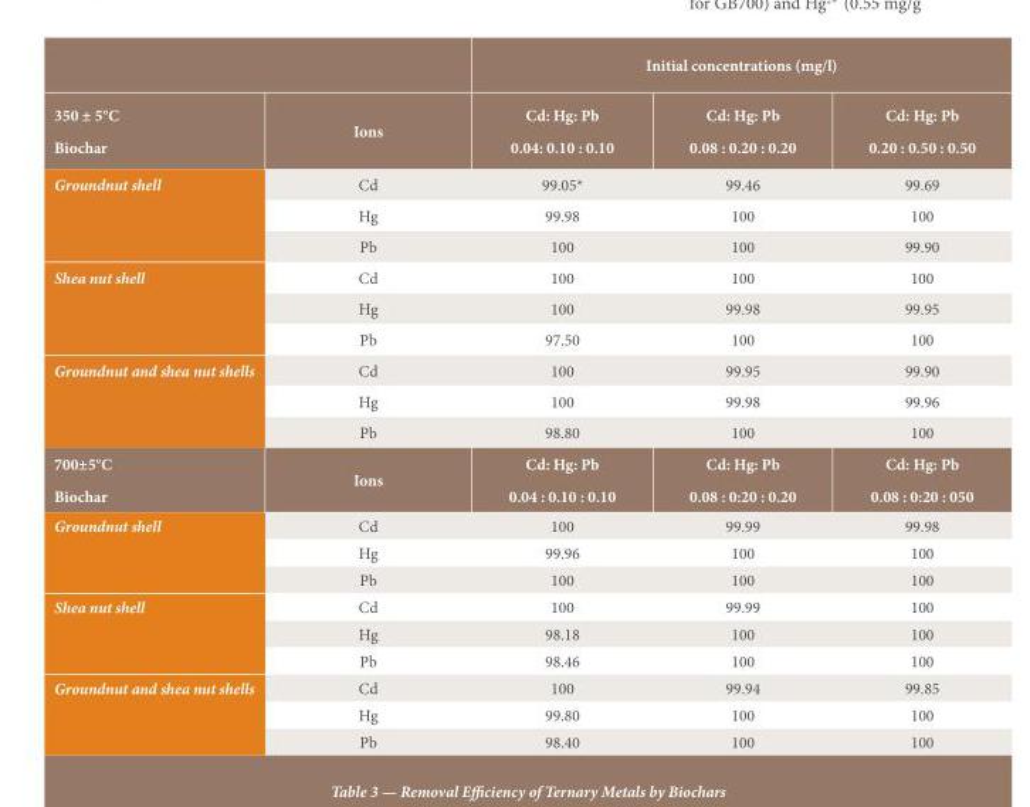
<table><thead><tr><td rowspan="2">350 ± 5°C Biochar</td><td rowspan="2">Ions</td><td colspan="3">Initial concentrations (mg/l)</td></tr><tr><td>Cd: Hg: Pb 0.04: 0.10 : 0.10</td><td>Cd: Hg: Pb 0.08 : 0.20 : 0.20</td><td>Cd: Hg: Pb 0.20 : 0.50 : 0.50</td></tr></thead><tbody><tr><td rowspan="3">Groundnut shell</td><td>Cd</td><td>99.05*</td><td>99.46</td><td>99.69</td></tr><tr><td>Hg</td><td>99.98</td><td>100</td><td>100</td></tr><tr><td>Pb</td><td>100</td><td>100</td><td>99.90</td></tr><tr><td rowspan="3">Shea nut shell</td><td>Cd</td><td>100</td><td>100</td><td>100</td></tr><tr><td>Hg</td><td>100</td><td>99.98</td><td>99.95</td></tr><tr><td>Pb</td><td>97.50</td><td>100</td><td>100</td></tr><tr><td rowspan="3">Groundnut and shea nut shells</td><td>Cd</td><td>100</td><td>99.95</td><td>99.90</td></tr><tr><td>Hg</td><td>100</td><td>99.98</td><td>99.96</td></tr><tr><td>Pb</td><td>98.80</td><td>100</td><td>100</td></tr><tr><td>700±5°C Biochar</td><td>Ions</td><td>Cd: Hg: Pb 0.04 : 0.10 : 0.10</td><td>Cd: Hg: Pb 0.08 : 0:20 : 0.20</td><td>Cd: Hg: Pb 0.08 : 0:20 : 050</td></tr><tr><td rowspan="3">Groundnut shell</td><td>Cd</td><td>100</td><td>99.99</td><td>99.98</td></tr><tr><td>Hg</td><td>99.96</td><td>100</td><td>100</td></tr><tr><td>Pb</td><td>100</td><td>100</td><td>100</td></tr><tr><td rowspan="3">Shea nut shell</td><td>Cd</td><td>100</td><td>99.99</td><td>100</td></tr><tr><td>Hg</td><td>98.18</td><td>100</td><td>100</td></tr><tr><td>Pb</td><td>98.46</td><td>100</td><td>100</td></tr><tr><td rowspan="3">Groundnut and shea nut shells</td><td>Cd</td><td>100</td><td>99.94</td><td>99.85</td></tr><tr><td>Hg</td><td>99.80</td><td>100</td><td>100</td></tr><tr><td>Pb</td><td>98.40</td><td>100</td><td>100</td></tr></tbody></table>